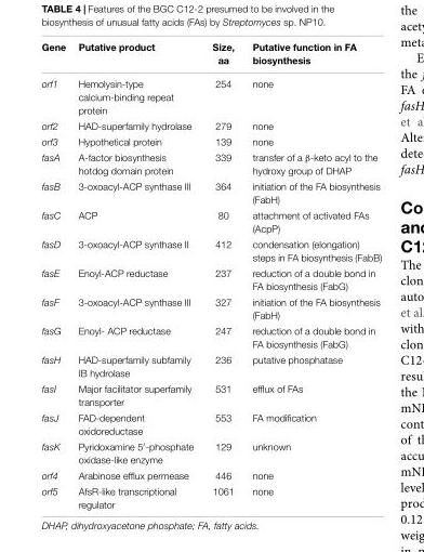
<table><thead><tr><td>Gene</td><td>Putative product</td><td>Size, aa</td><td>Putative function in FA biosynthesis</td></tr></thead><tbody><tr><td>orf1</td><td>Hemolysin-type calcium-binding repeat protein</td><td>254</td><td>none</td></tr><tr><td>orf2</td><td>HAD-superfamily hydrolase</td><td>279</td><td>none</td></tr><tr><td>orf3</td><td>Hypothetical protein</td><td>139</td><td>none</td></tr><tr><td>fasA</td><td>A-factor biosynthesis hotdog domain protein</td><td>339</td><td>transfer of a β-keto acyl to the hydroxy group of DHAP</td></tr><tr><td>fasB</td><td>3-oxoacyl-ACP synthase III</td><td>364</td><td>initiation of the FA biosynthesis (FabH)</td></tr><tr><td>fasC</td><td>ACP</td><td>80</td><td>attachment of activated FAs (AcpP)</td></tr><tr><td>fasD</td><td>3-oxoacyl-ACP synthase II</td><td>412</td><td>condensation (elongation) steps in FA biosynthesis (FabB)</td></tr><tr><td>fasE</td><td>Enoyl-ACP reductase</td><td>237</td><td>reduction of a double bond in FA biosynthesis (FabG)</td></tr><tr><td>fasF</td><td>3-oxoacyl-ACP synthase III</td><td>327</td><td>initiation of the FA biosynthesis (FabH)</td></tr><tr><td>fasG</td><td>Enoyl- ACP reductase</td><td>247</td><td>reduction of a double bond in FA biosynthesis (FabG)</td></tr><tr><td>fasH</td><td>HAD-superfamily subfamily IB hydrolase</td><td>236</td><td>putative phosphatase</td></tr><tr><td>fasI</td><td>Major facilitator superfamily transporter</td><td>531</td><td>efflux of FAs</td></tr><tr><td>fasJ</td><td>FAD-dependent oxidoreductase</td><td>553</td><td>FA modification</td></tr><tr><td>fasK</td><td>Pyridoxamine 5′-phosphate oxidase-like enzyme</td><td>129</td><td>unknown</td></tr><tr><td>orf4</td><td>Arabinose efflux permease</td><td>446</td><td>none</td></tr><tr><td>orf5</td><td>AfsR-like transcriptional regulator</td><td>1061</td><td>none</td></tr></tbody></table>